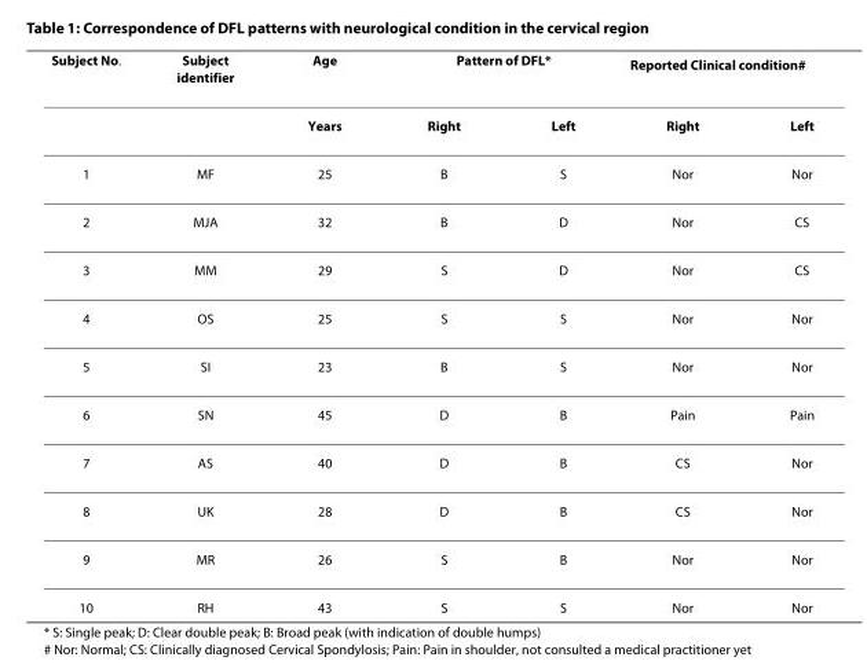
<table><thead><tr><td rowspan="2">Subject No.</td><td rowspan="2">Subject identifier</td><td rowspan="2">Age Years</td><td colspan="2">Pattern of DFL*</td><td colspan="2">Reported Clinical condition<sup>#</sup></td></tr><tr><td>Right</td><td>Left</td><td>Right</td><td>Left</td></tr></thead><tbody><tr><td>1</td><td>MF</td><td>25</td><td>B</td><td>S</td><td>Nor</td><td>Nor</td></tr><tr><td>2</td><td>MJA</td><td>32</td><td>B</td><td>D</td><td>Nor</td><td>CS</td></tr><tr><td>3</td><td>MM</td><td>29</td><td>S</td><td>D</td><td>Nor</td><td>CS</td></tr><tr><td>4</td><td>OS</td><td>25</td><td>S</td><td>S</td><td>Nor</td><td>Nor</td></tr><tr><td>5</td><td>SI</td><td>23</td><td>B</td><td>S</td><td>Nor</td><td>Nor</td></tr><tr><td>6</td><td>SN</td><td>45</td><td>D</td><td>B</td><td>Pain</td><td>Pain</td></tr><tr><td>7</td><td>AS</td><td>40</td><td>D</td><td>B</td><td>CS</td><td>Nor</td></tr><tr><td>8</td><td>UK</td><td>28</td><td>D</td><td>B</td><td>CS</td><td>Nor</td></tr><tr><td>9</td><td>MR</td><td>26</td><td>S</td><td>B</td><td>Nor</td><td>Nor</td></tr><tr><td>10</td><td>RH</td><td>43</td><td>S</td><td>S</td><td>Nor</td><td>Nor</td></tr></tbody></table>